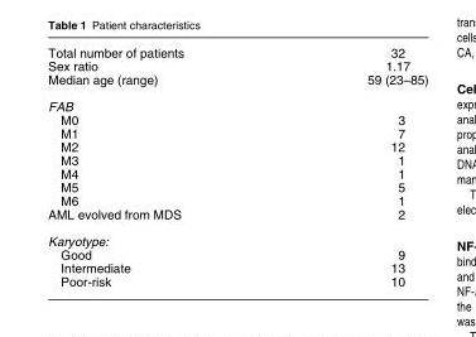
<table><tbody><tr><td>Total number of patients</td><td>32</td></tr><tr><td>Sex ratio</td><td>1.17</td></tr><tr><td>Median age (range)</td><td>59 (23–85)</td></tr><tr><td colspan="2">FAB</td></tr><tr><td>M0</td><td>3</td></tr><tr><td>M1</td><td>7</td></tr><tr><td>M2</td><td>12</td></tr><tr><td>M3</td><td>1</td></tr><tr><td>M4</td><td>1</td></tr><tr><td>M5</td><td>5</td></tr><tr><td>M6</td><td>1</td></tr><tr><td>AML evolved from MDS</td><td>2</td></tr><tr><td colspan="2">Karyotype:</td></tr><tr><td>Good</td><td>9</td></tr><tr><td>Intermediate</td><td>13</td></tr><tr><td>Poor-risk</td><td>10</td></tr></tbody></table>